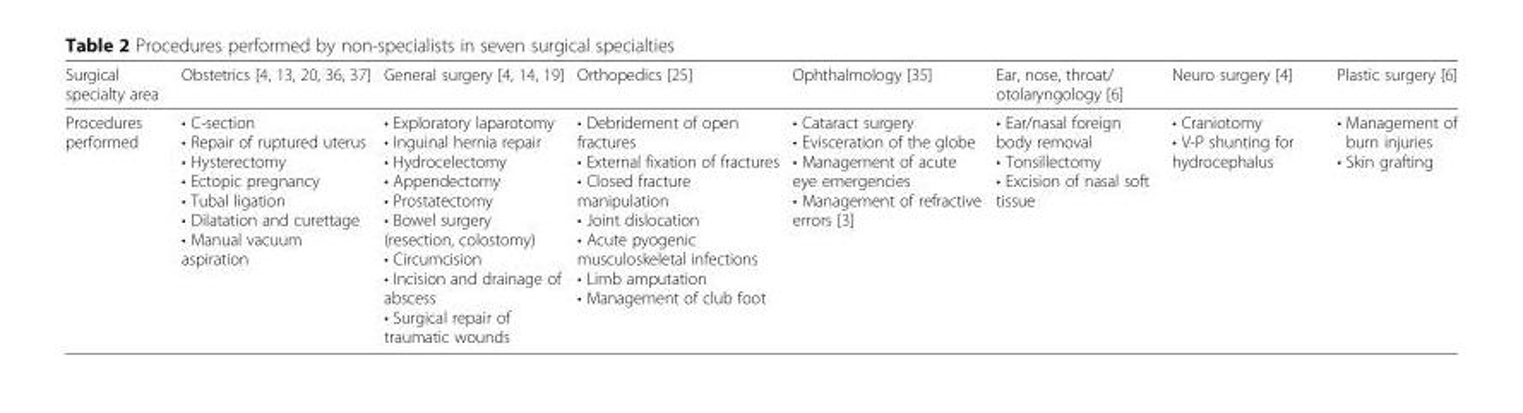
<table><thead><tr><td>Surgical specialty area</td><td>Obstetrics [4, 13, 20, 36, 37]</td><td>General surgery [4, 14, 19]</td><td>Orthopedics [25]</td><td>Ophthalmology [35]</td><td>Ear, nose, throat/ otolaryngology [6]</td><td>Neuro surgery [4]</td><td>Plastic surgery [6]</td></tr></thead><tbody><tr><td>Procedures performed</td><td>• C-section • Repair of ruptured uterus • Hysterectomy • Ectopic pregnancy • Tubal ligation • Dilatation and curettage • Manual vacuum aspiration</td><td>• Exploratory laparotomy • Inguinal hernia repair • Hydrocelectomy • Appendectomy • Prostatectomy • Bowel surgery (resection, colostomy) • Circumcision • Incision and drainage of abscess • Surgical repair of traumatic wounds</td><td>• Debridement of open fractures • External fixation of fractures • Closed fracture manipulation • Joint dislocation • Acute pyogenic musculoskeletal infections • Limb amputation • Management of club foot</td><td>• Cataract surgery • Evisceration of the globe • Management of acute eye emergencies • Management of refractive errors [3]</td><td>• Ear/nasal foreign body removal • Tonsillectomy • Excision of nasal soft tissue</td><td>• Craniotomy • V-P shunting for hydrocephalus</td><td>• Management of burn injuries • Skin grafting</td></tr></tbody></table>